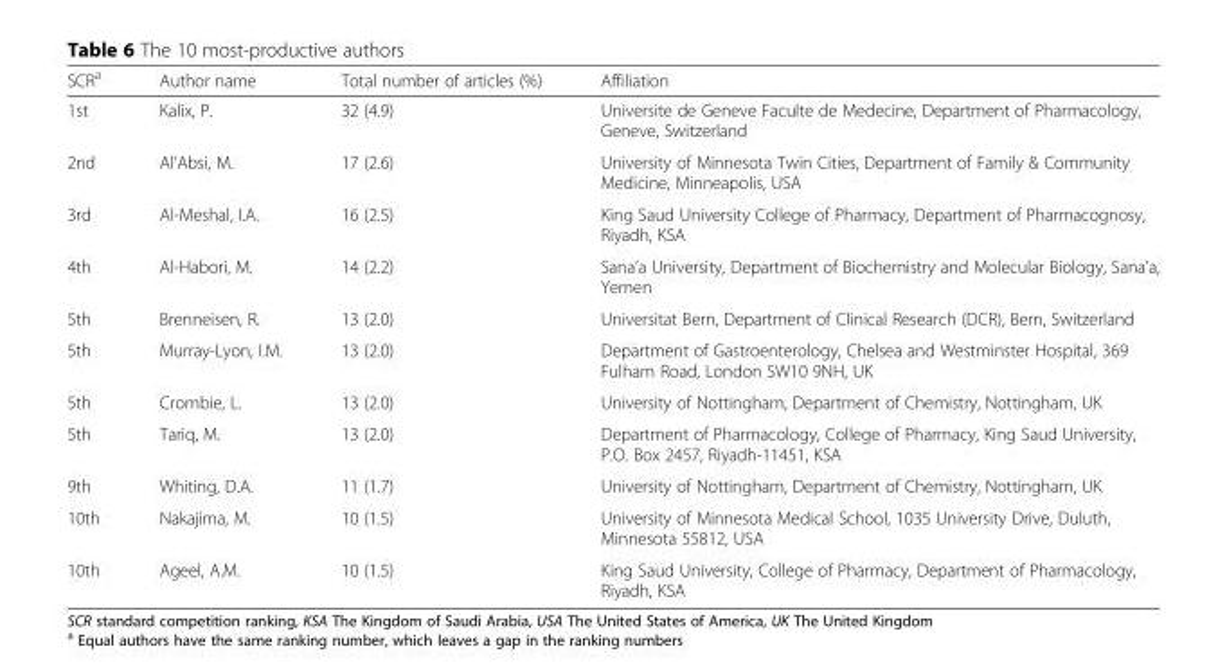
<table><thead><tr><td>SCR<sup>a</sup></td><td>Author name</td><td>Total number of articles (%)</td><td>Affiliation</td></tr></thead><tbody><tr><td>1st</td><td>Kalix, P.</td><td>32 (4.9)</td><td>Universite de Geneve Faculte de Medecine, Department of Pharmacology, Geneve, Switzerland</td></tr><tr><td>2nd</td><td>Al’Absi, M.</td><td>17 (2.6)</td><td>University of Minnesota Twin Cities, Department of Family &amp; Community Medicine, Minneapolis, USA</td></tr><tr><td>3rd</td><td>Al-Meshal, I.A.</td><td>16 (2.5)</td><td>King Saud University College of Pharmacy, Department of Pharmacognosy, Riyadh, KSA</td></tr><tr><td>4th</td><td>Al-Habori, M.</td><td>14 (2.2)</td><td>Sana’a University, Department of Biochemistry and Molecular Biology, Sana’a, Yemen</td></tr><tr><td>5th</td><td>Brenneisen, R.</td><td>13 (2.0)</td><td>Universitat Bern, Department of Clinical Research (DCR), Bern, Switzerland</td></tr><tr><td>5th</td><td>Murray-Lyon, I.M.</td><td>13 (2.0)</td><td>Department of Gastroenterology, Chelsea and Westminster Hospital, 369 Fulham Road, London SW10 9NH, UK</td></tr><tr><td>5th</td><td>Crombie, L.</td><td>13 (2.0)</td><td>University of Nottingham, Department of Chemistry, Nottingham, UK</td></tr><tr><td>5th</td><td>Tariq, M.</td><td>13 (2.0)</td><td>Department of Pharmacology, College of Pharmacy, King Saud University, P.O. Box 2457, Riyadh-11451, KSA</td></tr><tr><td>9th</td><td>Whiting, D.A.</td><td>11 (1.7)</td><td>University of Nottingham, Department of Chemistry, Nottingham, UK</td></tr><tr><td>10th</td><td>Nakajima, M.</td><td>10 (1.5)</td><td>University of Minnesota Medical School, 1035 University Drive, Duluth, Minnesota 55812, USA</td></tr><tr><td>10th</td><td>Ageel, A.M.</td><td>10 (1.5)</td><td>King Saud University, College of Pharmacy, Department of Pharmacology, Riyadh, KSA</td></tr></tbody></table>